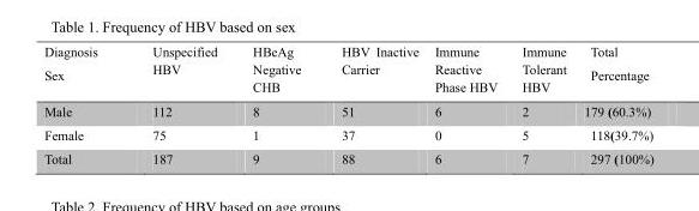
<table><thead><tr><td>Diagnosis Sex</td><td>Unspecified HBV</td><td>HBeAg Negative CHB</td><td>HBV Inactive Carrier</td><td>Immune Reactive Phase HBV</td><td>Immune Tolerant HBV</td><td>Total Percentage</td></tr></thead><tbody><tr><td>Male</td><td>112</td><td>8</td><td>51</td><td>6</td><td>2</td><td>179 (60.3%)</td></tr><tr><td>Female</td><td>75</td><td>1</td><td>37</td><td>0</td><td>5</td><td>118(39.7%)</td></tr><tr><td>Total</td><td>187</td><td>9</td><td>88</td><td>6</td><td>7</td><td>297 (100%)</td></tr></tbody></table>